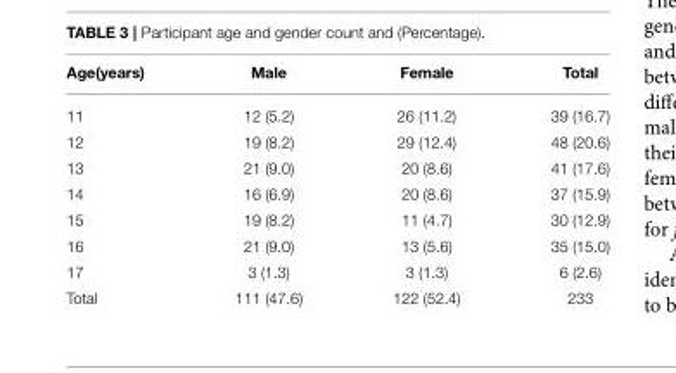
<table><thead><tr><td>Age(years)</td><td>Male</td><td>Female</td><td>Total</td></tr></thead><tbody><tr><td>11</td><td>12 (5.2)</td><td>26 (11.2)</td><td>39 (16.7)</td></tr><tr><td>12</td><td>19 (8.2)</td><td>29 (12.4)</td><td>48 (20.6)</td></tr><tr><td>13</td><td>21 (9.0)</td><td>20 (8.6)</td><td>41 (17.6)</td></tr><tr><td>14</td><td>16 (6.9)</td><td>20 (8.6)</td><td>37 (15.9)</td></tr><tr><td>15</td><td>19 (8.2)</td><td>11 (4.7)</td><td>30 (12.9)</td></tr><tr><td>16</td><td>21 (9.0)</td><td>13 (5.6)</td><td>35 (15.0)</td></tr><tr><td>17</td><td>3 (1.3)</td><td>3 (1.3)</td><td>6 (2.6)</td></tr><tr><td>Total</td><td>111 (47.6)</td><td>122 (52.4)</td><td>233</td></tr></tbody></table>